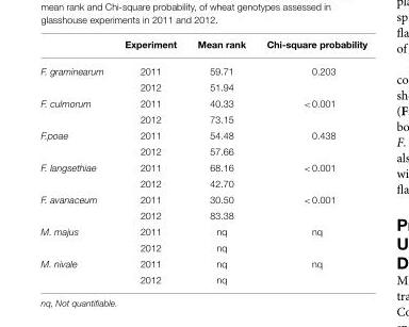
<table><thead><tr><td></td><td>Experiment</td><td>Mean rank</td><td>Chi-square probability</td></tr></thead><tbody><tr><td rowspan="2">F. graminearum</td><td>2011</td><td>59.71</td><td>0.203</td></tr><tr><td>2012</td><td>51.94</td><td></td></tr><tr><td rowspan="2">F. culmorum</td><td>2011</td><td>40.33</td><td>&lt;0.001</td></tr><tr><td>2012</td><td>73.15</td><td></td></tr><tr><td rowspan="2">F.poae</td><td>2011</td><td>54.48</td><td>0.438</td></tr><tr><td>2012</td><td>57.66</td><td></td></tr><tr><td rowspan="2">F. langsethiae</td><td>2011</td><td>68.16</td><td>&lt;0.001</td></tr><tr><td>2012</td><td>42.70</td><td></td></tr><tr><td rowspan="2">F. avanaceum</td><td>2011</td><td>30.50</td><td>&lt;0.001</td></tr><tr><td>2012</td><td>83.38</td><td></td></tr><tr><td rowspan="2">M. majus</td><td>2011</td><td>nq</td><td>nq</td></tr><tr><td>2012</td><td>nq</td><td></td></tr><tr><td rowspan="2">M. nivale</td><td>2011</td><td>nq</td><td>nq</td></tr><tr><td>2012</td><td>nq</td><td></td></tr></tbody></table>